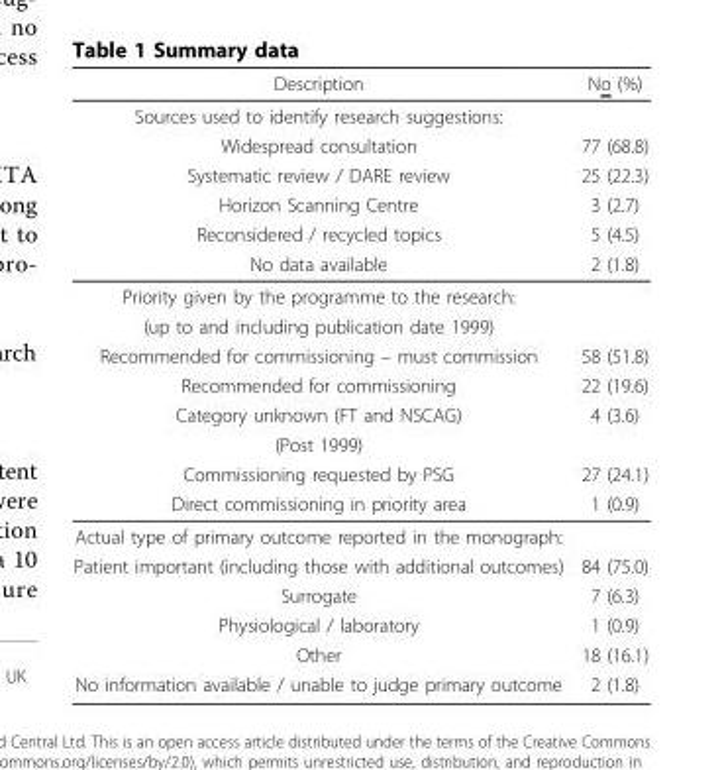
<table><thead><tr><td>Description</td><td>No (%)</td></tr></thead><tbody><tr><td colspan="2">Sources used to identify research suggestions:</td></tr><tr><td>Widespread consultation</td><td>77 (68.8)</td></tr><tr><td>Systematic review / DARE review</td><td>25 (22.3)</td></tr><tr><td>Horizon Scanning Centre</td><td>3 (2.7)</td></tr><tr><td>Reconsidered / recycled topics</td><td>5 (4.5)</td></tr><tr><td>No data available</td><td>2 (1.8)</td></tr><tr><td colspan="2">Priority given by the programme to the research:</td></tr><tr><td colspan="2">(up to and including publication date 1999)</td></tr><tr><td>Recommended for commissioning – must commission</td><td>58 (51.8)</td></tr><tr><td>Recommended for commissioning</td><td>22 (19.6)</td></tr><tr><td>Category unknown (FT and NSCAG)</td><td>4 (3.6)</td></tr><tr><td colspan="2">(Post 1999)</td></tr><tr><td>Commissioning requested by PSG</td><td>27 (24.1)</td></tr><tr><td>Direct commissioning in priority area</td><td>1 (0.9)</td></tr><tr><td colspan="2">Actual type of primary outcome reported in the monograph:</td></tr><tr><td>Patient important (including those with additional outcomes)</td><td>84 (75.0)</td></tr><tr><td>Surrogate</td><td>7 (6.3)</td></tr><tr><td>Physiological / laboratory</td><td>1 (0.9)</td></tr><tr><td>Other</td><td>18 (16.1)</td></tr><tr><td>No information available / unable to judge primary outcome</td><td>2 (1.8)</td></tr></tbody></table>